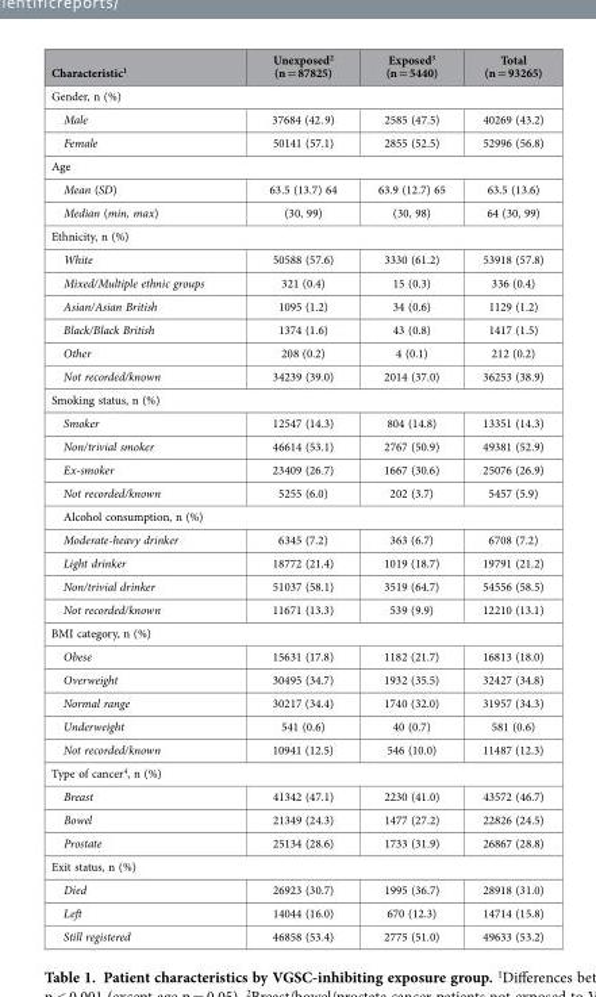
<table><thead><tr><td>Characteristic<sup>1</sup></td><td>Unexposed<sup>2</sup> (n = 87825)</td><td>Exposed<sup>3</sup> (n = 5440)</td><td>Total (n = 93265)</td></tr></thead><tbody><tr><td colspan="4">Gender, n (%)</td></tr><tr><td>Male</td><td>37684 (42. 9)</td><td>2585 (47.5)</td><td>40269 (43.2)</td></tr><tr><td>Female</td><td>50141 (57.1)</td><td>2855 (52.5)</td><td>52996 (56.8)</td></tr><tr><td colspan="4">Age</td></tr><tr><td>Mean (SD)</td><td>63.5 (13.7) 64</td><td>63.9 (12.7) 65</td><td>63.5 (13.6)</td></tr><tr><td>Median (min, max)</td><td>(30, 99)</td><td>(30, 98)</td><td>64 (30, 99)</td></tr><tr><td colspan="4">Ethnicity, n (%)</td></tr><tr><td>White</td><td>50588 (57.6)</td><td>3330 (61.2)</td><td>53918 (57.8)</td></tr><tr><td>Mixed/Multiple ethnic groups</td><td>321 (0.4)</td><td>15 (0.3)</td><td>336 (0.4)</td></tr><tr><td>Asian/Asian British</td><td>1095 (1.2)</td><td>34 (0.6)</td><td>1129 (1.2)</td></tr><tr><td>Black/Black British</td><td>1374 (1.6)</td><td>43 (0.8)</td><td>1417 (1.5)</td></tr><tr><td>Other</td><td>208 (0.2)</td><td>4 (0.1)</td><td>212 (0.2)</td></tr><tr><td>Not recorded/known</td><td>34239 (39.0)</td><td>2014 (37.0)</td><td>36253 (38.9)</td></tr><tr><td colspan="4">Smoking status, n (%)</td></tr><tr><td>Smoker</td><td>12547 (14.3)</td><td>804 (14.8)</td><td>13351 (14.3)</td></tr><tr><td>Non/trivial smoker</td><td>46614 (53.1)</td><td>2767 (50.9)</td><td>49381 (52.9)</td></tr><tr><td>Ex-smoker</td><td>23409 (26.7)</td><td>1667 (30.6)</td><td>25076 (26.9)</td></tr><tr><td>Not recorded/known</td><td>5255 (6.0)</td><td>202 (3.7)</td><td>5457 (5.9)</td></tr><tr><td colspan="4">Alcohol consumption, n (%)</td></tr><tr><td>Moderate-heavy drinker</td><td>6345 (7.2)</td><td>363 (6.7)</td><td>6708 (7.2)</td></tr><tr><td>Light drinker</td><td>18772 (21.4)</td><td>1019 (18.7)</td><td>19791 (21.2)</td></tr><tr><td>Non/trivial drinker</td><td>51037 (58.1)</td><td>3519 (64.7)</td><td>54556 (58.5)</td></tr><tr><td>Not recorded/known</td><td>11671 (13.3)</td><td>539 (9.9)</td><td>12210 (13.1)</td></tr><tr><td colspan="4">BMI category, n (%)</td></tr><tr><td>Obese</td><td>15631 (17.8)</td><td>1182 (21.7)</td><td>16813 (18.0)</td></tr><tr><td>Overweight</td><td>30495 (34.7)</td><td>1932 (35.5)</td><td>32427 (34.8)</td></tr><tr><td>Normal range</td><td>30217 (34.4)</td><td>1740 (32.0)</td><td>31957 (34.3)</td></tr><tr><td>Underweight</td><td>541 (0.6)</td><td>40 (0.7)</td><td>581 (0.6)</td></tr><tr><td>Not recorded/known</td><td>10941 (12.5)</td><td>546 (10.0)</td><td>11487 (12.3)</td></tr><tr><td colspan="4">Type of cancer<sup>4</sup>, n (%)</td></tr><tr><td>Breast</td><td>41342 (47.1)</td><td>2230 (41.0)</td><td>43572 (46.7)</td></tr><tr><td>Bowel</td><td>21349 (24.3)</td><td>1477 (27.2)</td><td>22826 (24.5)</td></tr><tr><td>Prostate</td><td>25134 (28.6)</td><td>1733 (31.9)</td><td>26867 (28.8)</td></tr><tr><td colspan="4">Exit status, n (%)</td></tr><tr><td>Died</td><td>26923 (30.7)</td><td>1995 (36.7)</td><td>28918 (31.0)</td></tr><tr><td>Left</td><td>14044 (16.0)</td><td>670 (12.3)</td><td>14714 (15.8)</td></tr><tr><td>Still registered</td><td>46858 (53.4)</td><td>2775 (51.0)</td><td>49633 (53.2)</td></tr></tbody></table>